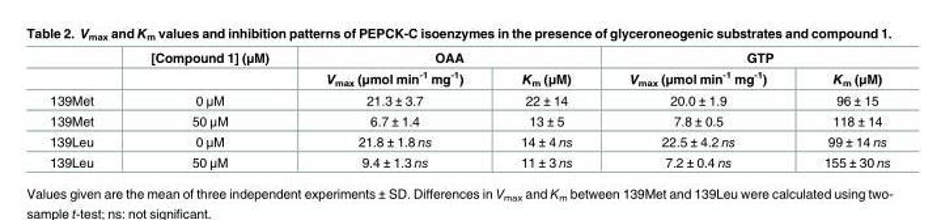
<table><thead><tr><td rowspan="2"></td><td rowspan="2">[Compound 1] (μM)</td><td colspan="2">OAA</td><td colspan="2">GTP</td></tr><tr><td>V<sub>max</sub> (μmol min<sup>-1</sup> mg<sup>-1</sup>)</td><td>K<sub>m</sub> (μM)</td><td>V<sub>max</sub> (μmol min<sup>-1</sup> mg<sup>-1</sup>)</td><td>K<sub>m</sub> (μM)</td></tr></thead><tbody><tr><td>139Met</td><td>0 μM</td><td>21.3 ± 3.7</td><td>22 ± 14</td><td>20.0 ± 1.9</td><td>96 ± 15</td></tr><tr><td>139Met</td><td>50 μM</td><td>6.7 ± 1.4</td><td>13 ± 5</td><td>7.8 ± 0.5</td><td>118 ± 14</td></tr><tr><td>139Leu</td><td>0 μM</td><td>21.8 ± 1.8 ns</td><td>14 ± 4 ns</td><td>22.5 ± 4.2 ns</td><td>99 ± 14 ns</td></tr><tr><td>139Leu</td><td>50 μM</td><td>9.4 ± 1.3 ns</td><td>11 ± 3 ns</td><td>7.2 ± 0.4 ns</td><td>155 ± 30 ns</td></tr></tbody></table>